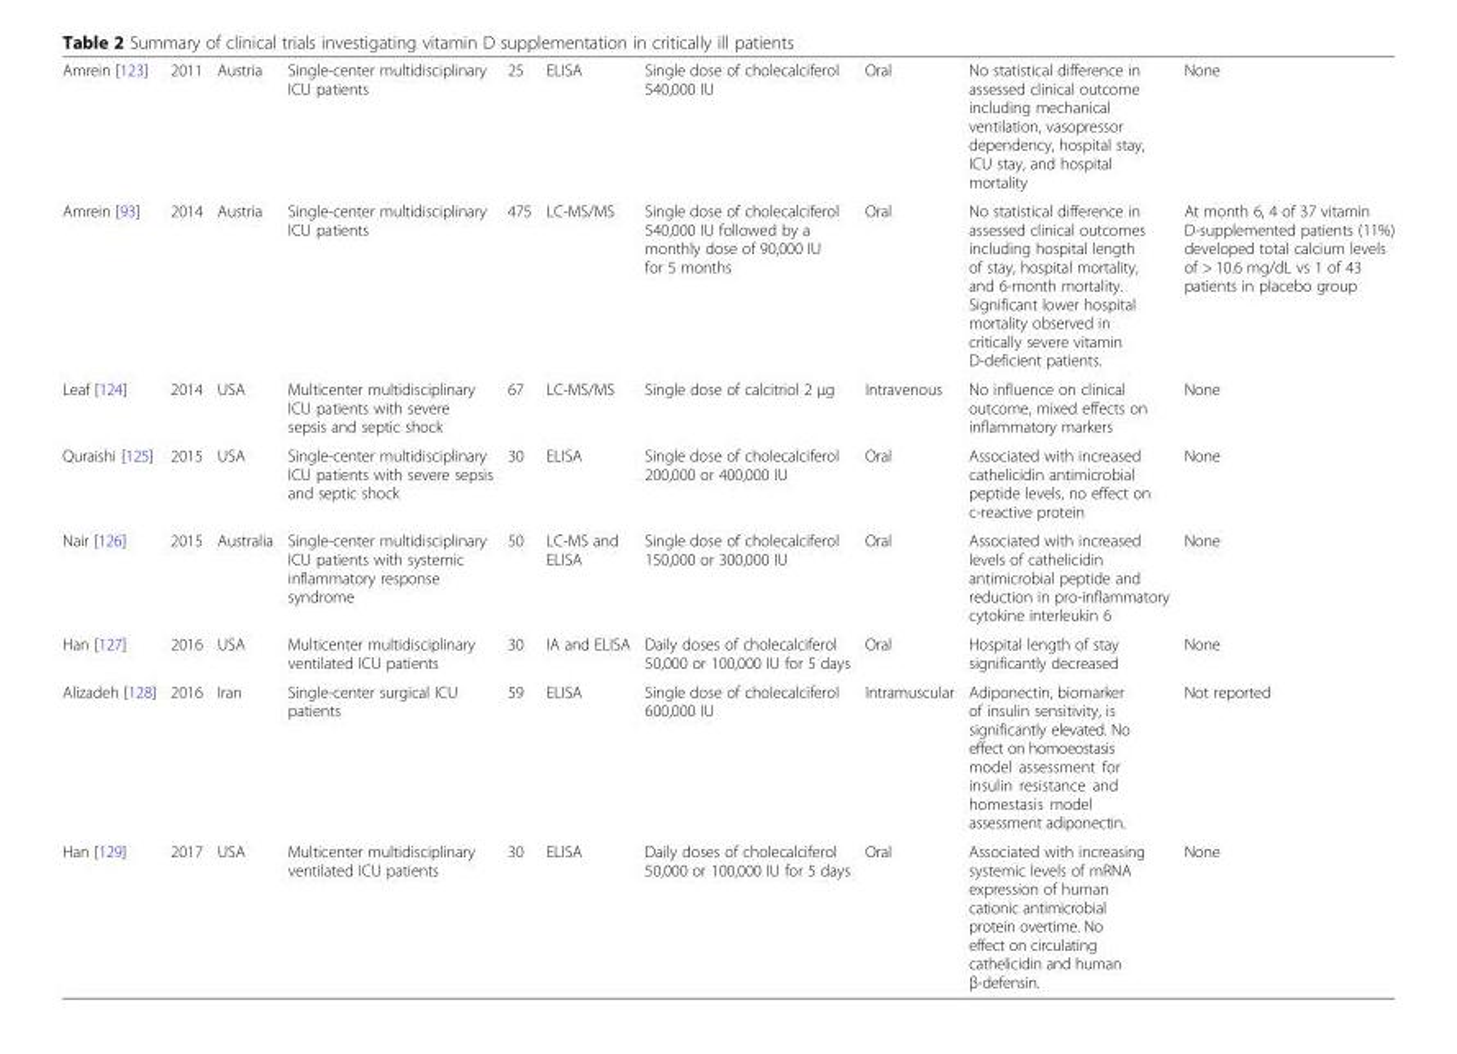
<table><tbody><tr><td>Amrein [123]</td><td>2011</td><td>Austria</td><td>Single-center multidisciplinary ICU patients</td><td>25</td><td>ELISA</td><td>Single dose of cholecalciferol 540,000 IU</td><td>Oral</td><td>No statistical difference in assessed clinical outcome including mechanical ventilation, vasopressor dependency, hospital stay, ICU stay, and hospital mortality</td><td>None</td></tr><tr><td>Amrein [93]</td><td>2014</td><td>Austria</td><td>Single-center multidisciplinary ICU patients</td><td>475</td><td>LC-MS/MS</td><td>Single dose of cholecalciferol 540,000 IU followed by a monthly dose of 90,000 IU for 5 months</td><td>Oral</td><td>No statistical difference in assessed clinical outcomes including hospital length of stay, hospital mortality, and 6-month mortality. Significant lower hospital mortality observed in critically severe vitamin D-deficient patients.</td><td>At month 6, 4 of 37 vitamin D-supplemented patients (11%) developed total calcium levels of &gt; 10.6 mg/dL vs 1 of 43 patients in placebo group</td></tr><tr><td>Leaf [124]</td><td>2014</td><td>USA</td><td>Multicenter multidisciplinary ICU patients with severe sepsis and septic shock</td><td>67</td><td>LC-MS/MS</td><td>Single dose of calcitriol 2 μg</td><td>Intravenous</td><td>No influence on clinical outcome, mixed effects on inflammatory markers</td><td>None</td></tr><tr><td>Quraishi [125]</td><td>2015</td><td>USA</td><td>Single-center multidisciplinary ICU patients with severe sepsis and septic shock</td><td>30</td><td>ELISA</td><td>Single dose of cholecalciferol 200,000 or 400,000 IU</td><td>Oral</td><td>Associated with increased cathelicidin antimicrobial peptide levels, no effect on c-reactive protein</td><td>None</td></tr><tr><td>Nair [126]</td><td>2015</td><td>Australia</td><td>Single-center multidisciplinary ICU patients with systemic inflammatory response syndrome</td><td>50</td><td>LC-MS and ELISA</td><td>Single dose of cholecalciferol 150,000 or 300,000 IU</td><td>Oral</td><td>Associated with increased levels of cathelicidin antimicrobial peptide and reduction in pro-inflammatory cytokine interleukin 6</td><td>None</td></tr><tr><td>Han [127]</td><td>2016</td><td>USA</td><td>Multicenter multidisciplinary ventilated ICU patients</td><td>30</td><td>IA and ELISA</td><td>Daily doses of cholecalciferol 50,000 or 100,000 IU for 5 days</td><td>Oral</td><td>Hospital length of stay significantly decreased</td><td>None</td></tr><tr><td>Alizadeh [128]</td><td>2016</td><td>Iran</td><td>Single-center surgical ICU patients</td><td>59</td><td>ELISA</td><td>Single dose of cholecalciferol 600,000 IU</td><td>Intramuscular</td><td>Adiponectin, biomarker of insulin sensitivity, is significantly elevated. No effect on homoeostasis model assessment for insulin resistance and homestasis model assessment adiponectin.</td><td>Not reported</td></tr><tr><td>Han [129]</td><td>2017</td><td>USA</td><td>Multicenter multidisciplinary ventilated ICU patients</td><td>30</td><td>ELISA</td><td>Daily doses of cholecalciferol 50,000 or 100,000 IU for 5 days</td><td>Oral</td><td>Associated with increasing systemic levels of mRNA expression of human cationic antimicrobial protein overtime. No effect on circulating cathelicidin and human β-defensin.</td><td>None</td></tr></tbody></table>